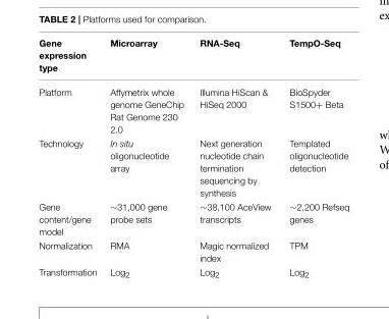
<table><thead><tr><td>Gene expression type</td><td>Microarray</td><td>RNA-Seq</td><td>TempO-Seq</td></tr></thead><tbody><tr><td>Platform</td><td>Affymetrix whole genome GeneChip Rat Genome 230 2.0</td><td>Illumina HiScan &amp; HiSeq 2000</td><td>BioSpyder S1500+ Beta</td></tr><tr><td>Technology</td><td>In situ oligonucleotide array</td><td>Next generation nucleotide chain termination sequencing by synthesis</td><td>Templated oligonucleotide detection</td></tr><tr><td>Gene content/gene model</td><td>∼31,000 gene probe sets</td><td>∼38,100 AceView transcripts</td><td>∼2,200 Refseq genes</td></tr><tr><td>Normalization</td><td>RMA</td><td>Magic normalized index</td><td>TPM</td></tr><tr><td>Transformation</td><td>Log<sub>2</sub></td><td>Log<sub>2</sub></td><td>Log<sub>2</sub></td></tr></tbody></table>